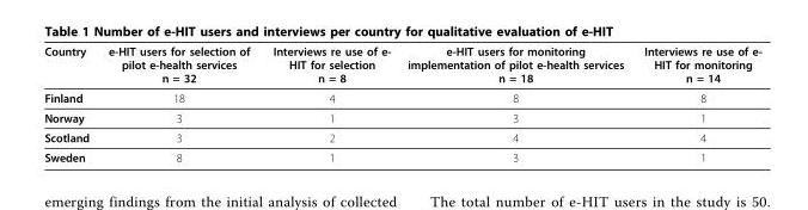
<table><thead><tr><td>Country</td><td>e-HIT users for selection of pilot e-health services n = 32</td><td>Interviews re use of e- HIT for selection n = 8</td><td>e-HIT users for monitoring implementation of pilot e-health services n = 18</td><td>Interviews re use of e- HIT for monitoring n = 14</td></tr></thead><tbody><tr><td>Finland</td><td>18</td><td>4</td><td>8</td><td>8</td></tr><tr><td>Norway</td><td>3</td><td>1</td><td>3</td><td>1</td></tr><tr><td>Scotland</td><td>3</td><td>2</td><td>4</td><td>4</td></tr><tr><td>Sweden</td><td>8</td><td>1</td><td>3</td><td>1</td></tr></tbody></table>